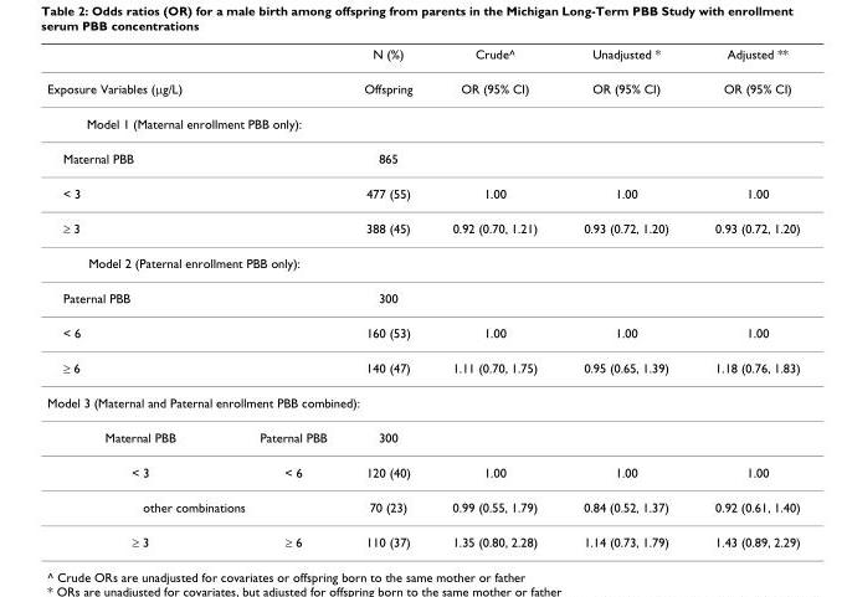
<table><thead><tr><td></td><td></td><td>N (%)</td><td>Crude^</td><td>Unadjusted *</td><td>Adjusted **</td></tr></thead><tbody><tr><td>Exposure Variables (μg/L)</td><td></td><td>Offspring</td><td>OR (95% CI)</td><td>OR (95% CI)</td><td>OR (95% CI)</td></tr><tr><td colspan="6">Model 1 (Maternal enrollment PBB only):</td></tr><tr><td>Maternal PBB</td><td></td><td>865</td><td></td><td></td><td></td></tr><tr><td>&lt; 3</td><td></td><td>477 (55)</td><td>1.00</td><td>1.00</td><td>1.00</td></tr><tr><td>≥ 3</td><td></td><td>388 (45)</td><td>0.92 (0.70, 1.21)</td><td>0.93 (0.72, 1.20)</td><td>0.93 (0.72, 1.20)</td></tr><tr><td colspan="6">Model 2 (Paternal enrollment PBB only):</td></tr><tr><td>Paternal PBB</td><td></td><td>300</td><td></td><td></td><td></td></tr><tr><td>&lt; 6</td><td></td><td>160 (53)</td><td>1.00</td><td>1.00</td><td>1.00</td></tr><tr><td>≥ 6</td><td></td><td>140 (47)</td><td>1.11 (0.70, 1.75)</td><td>0.95 (0.65, 1.39)</td><td>1.18 (0.76, 1.83)</td></tr><tr><td colspan="6">Model 3 (Maternal and Paternal enrollment PBB combined):</td></tr><tr><td>Maternal PBB</td><td>Paternal PBB</td><td>300</td><td></td><td></td><td></td></tr><tr><td>&lt; 3</td><td>&lt; 6</td><td>120 (40)</td><td>1.00</td><td>1.00</td><td>1.00</td></tr><tr><td colspan="2">other combinations</td><td>70 (23)</td><td>0.99 (0.55, 1.79)</td><td>0.84 (0.52, 1.37)</td><td>0.92 (0.61, 1.40)</td></tr><tr><td>≥ 3</td><td>≥ 6</td><td>110 (37)</td><td>1.35 (0.80, 2.28)</td><td>1.14 (0.73, 1.79)</td><td>1.43 (0.89, 2.29)</td></tr></tbody></table>